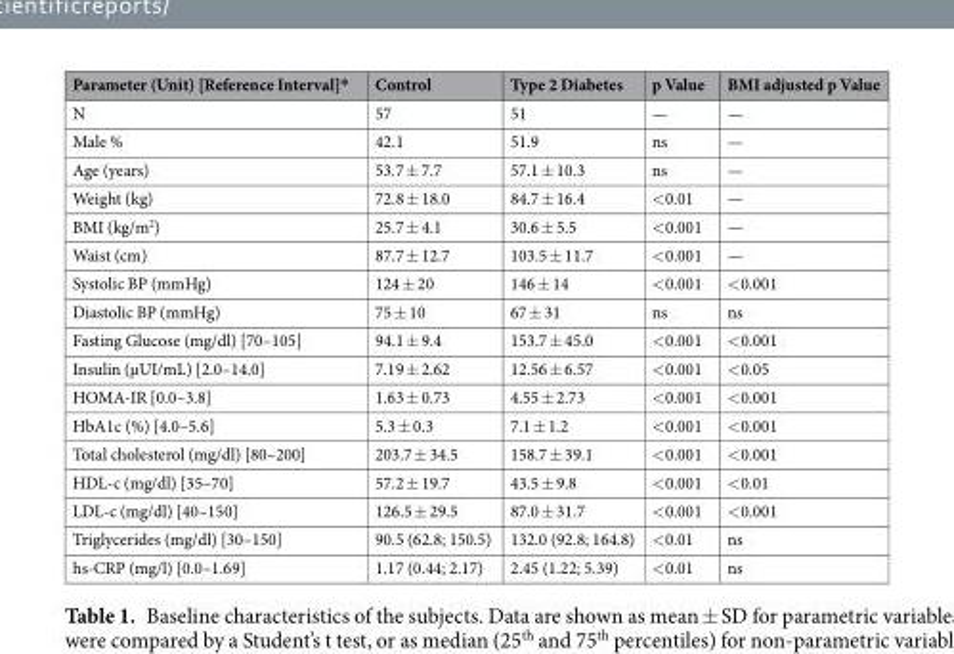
<table><thead><tr><td>Parameter (Unit) [Reference Interval]*</td><td>Control</td><td>Type 2 Diabetes</td><td>p Value</td><td>BMI adjusted p Value</td></tr></thead><tbody><tr><td>N</td><td>57</td><td>51</td><td>—</td><td>—</td></tr><tr><td>Male %</td><td>42.1</td><td>51.9</td><td>ns</td><td>—</td></tr><tr><td>Age (years)</td><td>53.7 ± 7.7</td><td>57.1 ± 10.3</td><td>ns</td><td>—</td></tr><tr><td>Weight (kg)</td><td>72.8 ± 18.0</td><td>84.7 ± 16.4</td><td>&lt;0.01</td><td>—</td></tr><tr><td>BMI (kg/m<sup>2</sup>)</td><td>25.7 ± 4.1</td><td>30.6 ± 5.5</td><td>&lt;0.001</td><td>—</td></tr><tr><td>Waist (cm)</td><td>87.7 ± 12.7</td><td>103.5 ± 11.7</td><td>&lt;0.001</td><td>—</td></tr><tr><td>Systolic BP (mmHg)</td><td>124 ± 20</td><td>146 ± 14</td><td>&lt;0.001</td><td>&lt;0.001</td></tr><tr><td>Diastolic BP (mmHg)</td><td>75 ± 10</td><td>67 ± 31</td><td>ns</td><td>ns</td></tr><tr><td>Fasting Glucose (mg/dl) [70–105]</td><td>94.1 ± 9.4</td><td>153.7 ± 45.0</td><td>&lt;0.001</td><td>&lt;0.001</td></tr><tr><td>Insulin (µUI/mL) [2.0–14.0]</td><td>7.19 ± 2.62</td><td>12.56 ± 6.57</td><td>&lt;0.001</td><td>&lt;0.05</td></tr><tr><td>HOMA-IR [0.0–3.8]</td><td>1.63 ± 0.73</td><td>4.55 ± 2.73</td><td>&lt;0.001</td><td>&lt;0.001</td></tr><tr><td>HbA1c (%) [4.0–5.6]</td><td>5.3 ± 0.3</td><td>7.1 ± 1.2</td><td>&lt;0.001</td><td>&lt;0.001</td></tr><tr><td>Total cholesterol (mg/dl) [80–200]</td><td>203.7 ± 34.5</td><td>158.7 ± 39.1</td><td>&lt;0.001</td><td>&lt;0.001</td></tr><tr><td>HDL-c (mg/dl) [35–70]</td><td>57.2 ± 19.7</td><td>43.5 ± 9.8</td><td>&lt;0.001</td><td>&lt;0.01</td></tr><tr><td>LDL-c (mg/dl) [40–150]</td><td>126.5 ± 29.5</td><td>87.0 ± 31.7</td><td>&lt;0.001</td><td>&lt;0.001</td></tr><tr><td>Triglycerides (mg/dl) [30–150]</td><td>90.5 (62.8; 150.5)</td><td>132.0 (92.8; 164.8)</td><td>&lt;0.01</td><td>ns</td></tr><tr><td>hs-CRP (mg/l) [0.0–1.69]</td><td>1.17 (0.44; 2.17)</td><td>2.45 (1.22; 5.39)</td><td>&lt;0.01</td><td>ns</td></tr></tbody></table>